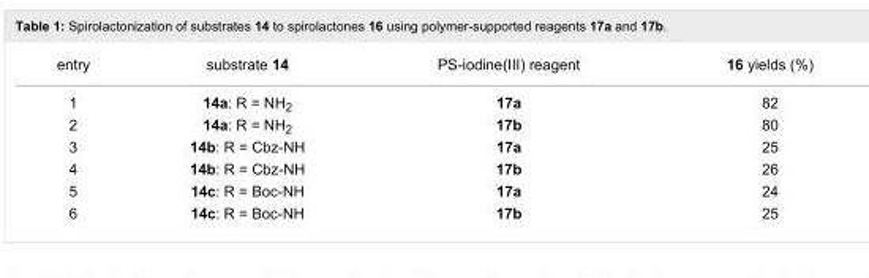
<table><tbody><tr><td>entry</td><td>substrate 14</td><td>PS-iodine(III) reagent</td><td>16 yields (%)</td></tr><tr><td>1</td><td>14a: R = NH<sub>2</sub></td><td>17a</td><td>82</td></tr><tr><td>2</td><td>14a: R = NH<sub>2</sub></td><td>17b</td><td>80</td></tr><tr><td>3</td><td>14b: R = Cbz-NH</td><td>17a</td><td>25</td></tr><tr><td>4</td><td>14b: R = Cbz-NH</td><td>17b</td><td>26</td></tr><tr><td>5</td><td>14c: R = Boc-NH</td><td>17a</td><td>24</td></tr><tr><td>6</td><td>14c: R = Boc-NH</td><td>17b</td><td>25</td></tr></tbody></table>